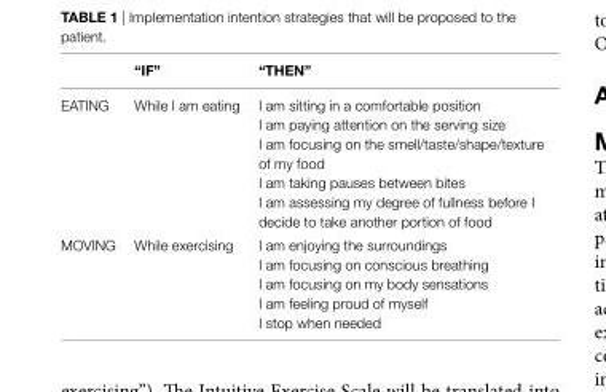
<table><thead><tr><td></td><td>“IF”</td><td>“tHEN”</td></tr></thead><tbody><tr><td>EATING</td><td>While I am eating</td><td>I am sitting in a comfortable position I am paying attention on the serving size I am focusing on the smell/taste/shape/texture of my food I am taking pauses between bites I am assessing my degree of fullness before I decide to take another portion of food</td></tr><tr><td>MOVING</td><td>While exercising</td><td>I am enjoying the surroundings I am focusing on conscious breathing I am focusing on my body sensations I am feeling proud of myself I stop when needed</td></tr></tbody></table>